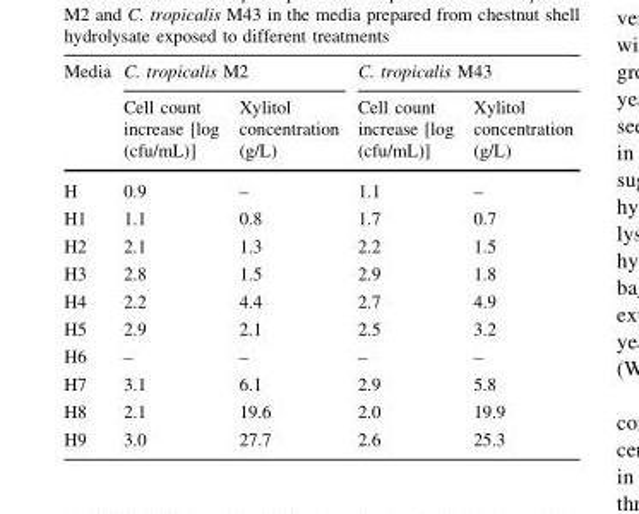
<table><thead><tr><td rowspan="2">Media</td><td colspan="2">C. tropicalis M2</td><td colspan="2">C. tropicalis M43</td></tr><tr><td>Cell count increase [log (cfu/mL)]</td><td>Xylitol concentration (g/L)</td><td>Cell count increase [log (cfu/mL)]</td><td>Xylitol concentration (g/L)</td></tr></thead><tbody><tr><td>H</td><td>0.9</td><td>–</td><td>1.1</td><td>–</td></tr><tr><td>H1</td><td>1.1</td><td>0.8</td><td>1.7</td><td>0.7</td></tr><tr><td>H2</td><td>2.1</td><td>1.3</td><td>2.2</td><td>1.5</td></tr><tr><td>H3</td><td>2.8</td><td>1.5</td><td>2.9</td><td>1.8</td></tr><tr><td>H4</td><td>2.2</td><td>4.4</td><td>2.7</td><td>4.9</td></tr><tr><td>H5</td><td>2.9</td><td>2.1</td><td>2.5</td><td>3.2</td></tr><tr><td>H6</td><td>–</td><td>–</td><td>–</td><td>–</td></tr><tr><td>H7</td><td>3.1</td><td>6.1</td><td>2.9</td><td>5.8</td></tr><tr><td>H8</td><td>2.1</td><td>19.6</td><td>2.0</td><td>19.9</td></tr><tr><td>H9</td><td>3.0</td><td>27.7</td><td>2.6</td><td>25.3</td></tr></tbody></table>